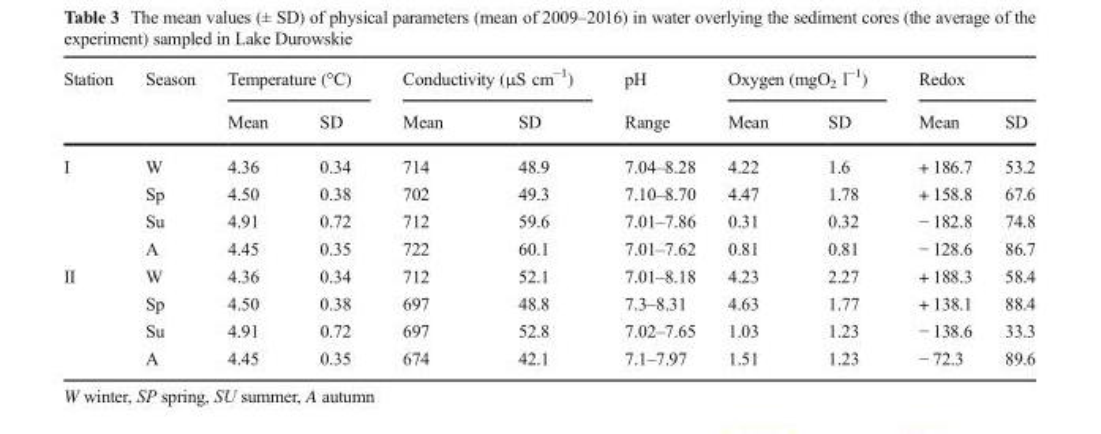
<table><thead><tr><td rowspan="2">Station</td><td rowspan="2">Season</td><td colspan="2">Temperature (°C)</td><td colspan="2">Conductivity (μS cm<sup>−1</sup>)</td><td rowspan="2">pH Range</td><td colspan="2">Oxygen (mgO<sub>2</sub> l<sup>−1</sup>)</td><td colspan="2">Redox</td></tr><tr><td>Mean</td><td>SD</td><td>Mean</td><td>SD</td><td>Mean</td><td>SD</td><td>Mean</td><td>SD</td></tr></thead><tbody><tr><td rowspan="4">I</td><td>W</td><td>4.36</td><td>0.34</td><td>714</td><td>48.9</td><td>7.04–8.28</td><td>4.22</td><td>1.6</td><td>+ 186.7</td><td>53.2</td></tr><tr><td>Sp</td><td>4.50</td><td>0.38</td><td>702</td><td>49.3</td><td>7.10–8.70</td><td>4.47</td><td>1.78</td><td>+ 158.8</td><td>67.6</td></tr><tr><td>Su</td><td>4.91</td><td>0.72</td><td>712</td><td>59.6</td><td>7.01–7.86</td><td>0.31</td><td>0.32</td><td>− 182.8</td><td>74.8</td></tr><tr><td>A</td><td>4.45</td><td>0.35</td><td>722</td><td>60.1</td><td>7.01–7.62</td><td>0.81</td><td>0.81</td><td>− 128.6</td><td>86.7</td></tr><tr><td rowspan="4">II</td><td>W</td><td>4.36</td><td>0.34</td><td>712</td><td>52.1</td><td>7.01–8.18</td><td>4.23</td><td>2.27</td><td>+ 188.3</td><td>58.4</td></tr><tr><td>Sp</td><td>4.50</td><td>0.38</td><td>697</td><td>48.8</td><td>7.3–8.31</td><td>4.63</td><td>1.77</td><td>+ 138.1</td><td>88.4</td></tr><tr><td>Su</td><td>4.91</td><td>0.72</td><td>697</td><td>52.8</td><td>7.02–7.65</td><td>1.03</td><td>1.23</td><td>− 138.6</td><td>33.3</td></tr><tr><td>A</td><td>4.45</td><td>0.35</td><td>674</td><td>42.1</td><td>7.1–7.97</td><td>1.51</td><td>1.23</td><td>− 72.3</td><td>89.6</td></tr></tbody></table>